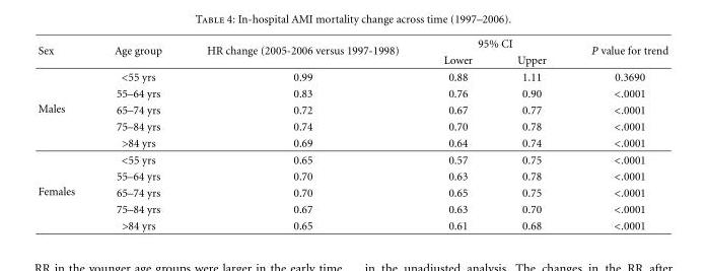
<table><thead><tr><td rowspan="2">Sex</td><td rowspan="2">Age group</td><td rowspan="2">HR change (2005-2006 versus 1997-1998)</td><td colspan="2">95% CI</td><td rowspan="2">P value for trend</td></tr><tr><td>Lower</td><td>Upper</td></tr></thead><tbody><tr><td rowspan="5">Males</td><td>&lt;55 yrs</td><td>0.99</td><td>0.88</td><td>1.11</td><td>0.3690</td></tr><tr><td>55–64 yrs</td><td>0.83</td><td>0.76</td><td>0.90</td><td>&lt;.0001</td></tr><tr><td>65–74 yrs</td><td>0.72</td><td>0.67</td><td>0.77</td><td>&lt;.0001</td></tr><tr><td>75–84 yrs</td><td>0.74</td><td>0.70</td><td>0.78</td><td>&lt;.0001</td></tr><tr><td>&gt;84 yrs</td><td>0.69</td><td>0.64</td><td>0.74</td><td>&lt;.0001</td></tr><tr><td rowspan="5">Females</td><td>&lt;55 yrs</td><td>0.65</td><td>0.57</td><td>0.75</td><td>&lt;.0001</td></tr><tr><td>55–64 yrs</td><td>0.70</td><td>0.63</td><td>0.78</td><td>&lt;.0001</td></tr><tr><td>65–74 yrs</td><td>0.70</td><td>0.65</td><td>0.75</td><td>&lt;.0001</td></tr><tr><td>75–84 yrs</td><td>0.67</td><td>0.63</td><td>0.70</td><td>&lt;.0001</td></tr><tr><td>&gt;84 yrs</td><td>0.65</td><td>0.61</td><td>0.68</td><td>&lt;.0001</td></tr></tbody></table>